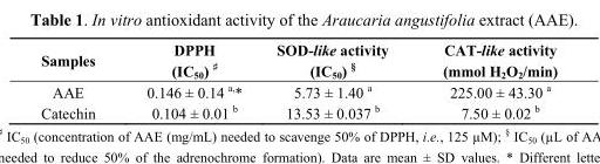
<table><thead><tr><td>Samples</td><td>DPPH (IC<sub>50</sub>) <sup>♯</sup></td><td>SOD-like activity (IC<sub>50</sub>) <sup>§</sup></td><td>CAT-like activity (mmol H<sub>2</sub>O<sub>2</sub>/min)</td></tr></thead><tbody><tr><td>AAE</td><td>0.146 ± 0.14 <sup>a,</sup>*</td><td>5.73 ± 1.40 <sup>a</sup></td><td>225.00 ± 43.30 <sup>a</sup></td></tr><tr><td>Catechin</td><td>0.104 ± 0.01 <sup>b</sup></td><td>13.53 ± 0.037 <sup>b</sup></td><td>7.50 ± 0.02 <sup>b</sup></td></tr></tbody></table>